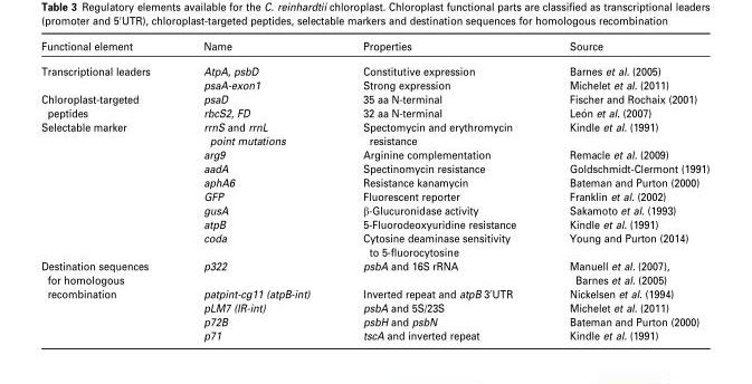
<table><thead><tr><td>Functional element</td><td>Name</td><td>Properties</td><td>Source</td></tr></thead><tbody><tr><td rowspan="2">Transcriptional leaders</td><td>AtpA, psbD</td><td>Constitutive expression</td><td>Barnes et al. (2005)</td></tr><tr><td>psaA-exon1</td><td>Strong expression</td><td>Michelet et al. (2011)</td></tr><tr><td rowspan="2">Chloroplast-targeted peptides</td><td>psaD</td><td>35 aa N-terminal</td><td>Fischer and Rochaix (2001)</td></tr><tr><td>rbcS2, FD</td><td>32 aa N-terminal</td><td>Le�on et al. (2007)</td></tr><tr><td rowspan="8">Selectable marker</td><td>rrnS and rrnL point mutations</td><td>Spectomycin and erythromycin resistance</td><td>Kindle et al. (1991)</td></tr><tr><td>arg9</td><td>Arginine complementation</td><td>Remacle et al. (2009)</td></tr><tr><td>aadA</td><td>Spectinomycin resistance</td><td>Goldschmidt-Clermont (1991)</td></tr><tr><td>aphA6</td><td>Resistance kanamycin</td><td>Bateman and Purton (2000)</td></tr><tr><td>GFP</td><td>Fluorescent reporter</td><td>Franklin et al. (2002)</td></tr><tr><td>gusA</td><td>β-Glucuronidase activity</td><td>Sakamoto et al. (1993)</td></tr><tr><td>atpB</td><td>5-Fluorodeoxyuridine resistance</td><td>Kindle et al. (1991)</td></tr><tr><td>coda</td><td>Cytosine deaminase sensitivity to 5-fluorocytosine</td><td>Young and Purton (2014)</td></tr><tr><td rowspan="5">Destination sequences for homologous recombination</td><td>p322</td><td>psbA and 16S rRNA</td><td>Manuell et al. (2007), Barnes et al. (2005)</td></tr><tr><td>patpint-cg11 (atpB-int)</td><td>Inverted repeat and atpB 3′UTR</td><td>Nickelsen et al. (1994)</td></tr><tr><td>pLM7 (IR-int)</td><td>psbA and 5S/23S</td><td>Michelet et al. (2011)</td></tr><tr><td>p72B</td><td>psbH and psbN</td><td>Bateman and Purton (2000)</td></tr><tr><td>p71</td><td>tscA and inverted repeat</td><td>Kindle et al. (1991)</td></tr></tbody></table>